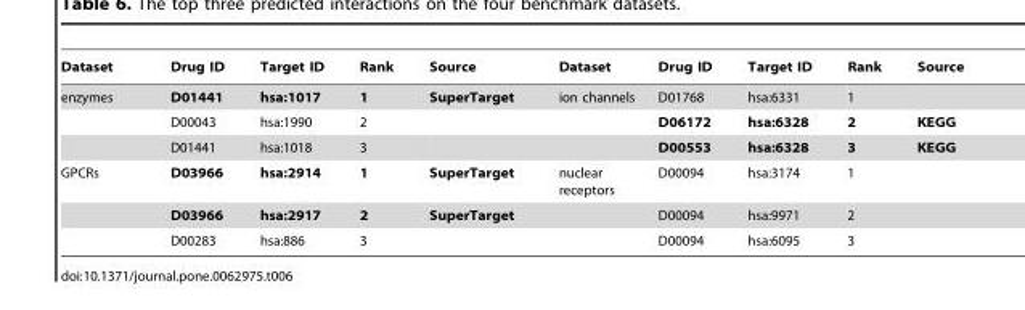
<table><thead><tr><td>Dataset</td><td>Drug ID</td><td>Target ID</td><td>Rank</td><td>Source</td><td>Dataset</td><td>Drug ID</td><td>Target ID</td><td>Rank</td><td>Source</td></tr></thead><tbody><tr><td rowspan="3">enzymes</td><td>D01441</td><td>hsa:1017</td><td>1</td><td>SuperTarget</td><td>ion channels</td><td>D01768</td><td>hsa:6331</td><td>1</td><td></td></tr><tr><td>D00043</td><td>hsa:1990</td><td>2</td><td></td><td></td><td>D06172</td><td>hsa:6328</td><td>2</td><td>KEGG</td></tr><tr><td>D01441</td><td>hsa:1018</td><td>3</td><td></td><td></td><td>D00553</td><td>hsa:6328</td><td>3</td><td>KEGG</td></tr><tr><td rowspan="3">GPCRs</td><td>D03966</td><td>hsa:2914</td><td>1</td><td>SuperTarget</td><td>nuclear receptors</td><td>D00094</td><td>hsa:3174</td><td>1</td><td></td></tr><tr><td>D03966</td><td>hsa:2917</td><td>2</td><td>SuperTarget</td><td></td><td>D00094</td><td>hsa:9971</td><td>2</td><td></td></tr><tr><td>D00283</td><td>hsa:886</td><td>3</td><td></td><td></td><td>D00094</td><td>hsa:6095</td><td>3</td><td></td></tr></tbody></table>